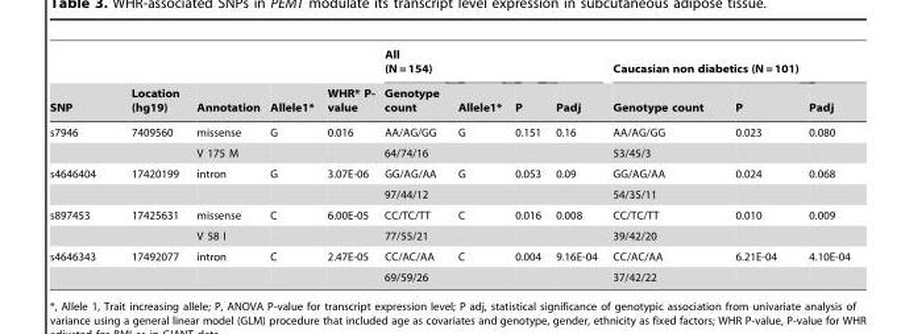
<table><thead><tr><td rowspan="2">SNP</td><td rowspan="2">Location (hg19)</td><td rowspan="2">Annotation</td><td rowspan="2">Allele1*</td><td rowspan="2">WHR* P- value</td><td rowspan="2">All (N = 154) Genotype count</td><td rowspan="2">Allele1*</td><td rowspan="2">P</td><td rowspan="2">Padj</td><td colspan="2">Caucasian non diabetics (N = 101)</td><td rowspan="2">Padj</td></tr><tr><td>Genotype count</td><td>P</td></tr></thead><tbody><tr><td rowspan="2">s7946</td><td>7409560</td><td>missense</td><td>G</td><td>0.016</td><td>AA/AG/GG</td><td>G</td><td>0.151</td><td>0.16</td><td>AA/AG/GG</td><td>0.023</td><td>0.080</td></tr><tr><td></td><td>V 175 M</td><td></td><td></td><td>64/74/16</td><td></td><td></td><td></td><td>53/45/3</td><td></td><td></td></tr><tr><td rowspan="2">s4646404</td><td>17420199</td><td>intron</td><td>G</td><td>3.07E-06</td><td>GG/AG/AA</td><td>G</td><td>0.053</td><td>0.09</td><td>GG/AG/AA</td><td>0.024</td><td>0.068</td></tr><tr><td></td><td></td><td></td><td></td><td>97/44/12</td><td></td><td></td><td></td><td>54/35/11</td><td></td><td></td></tr><tr><td rowspan="2">s897453</td><td>17425631</td><td>missense</td><td>C</td><td>6.00E-05</td><td>CC/TC/TT</td><td>C</td><td>0.016</td><td>0.008</td><td>CC/TC/TT</td><td>0.010</td><td>0.009</td></tr><tr><td></td><td>V 58 I</td><td></td><td></td><td>77/55/21</td><td></td><td></td><td></td><td>39/42/20</td><td></td><td></td></tr><tr><td rowspan="2">s4646343</td><td>17492077</td><td>intron</td><td>C</td><td>2.47E-05</td><td>CC/AC/AA</td><td>C</td><td>0.004</td><td>9.16E-04</td><td>CC/AC/AA</td><td>6.21E-04</td><td>4.10E-04</td></tr><tr><td></td><td></td><td></td><td></td><td>69/59/26</td><td></td><td></td><td></td><td>37/42/22</td><td></td><td></td></tr></tbody></table>